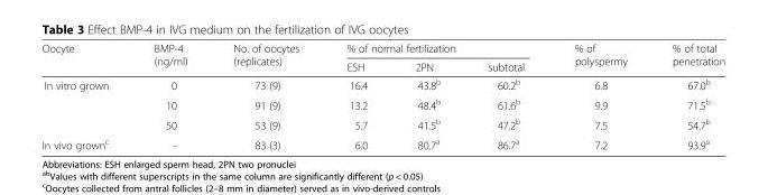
<table><thead><tr><td rowspan="2">Oocyte</td><td rowspan="2">BMP-4 (ng/ml)</td><td rowspan="2">No. of oocytes (replicates)</td><td colspan="3">% of normal fertilization</td><td rowspan="2">% of polyspermy</td><td rowspan="2">% of total penetration</td></tr><tr><td>ESH</td><td>2PN</td><td>subtotal</td></tr></thead><tbody><tr><td rowspan="3">In vitro grown</td><td>0</td><td>73 (9)</td><td>16.4</td><td>43.8<sup>b</sup></td><td>60.2<sup>b</sup></td><td>6.8</td><td>67.0<sup>b</sup></td></tr><tr><td>10</td><td>91 (9)</td><td>13.2</td><td>48.4<sup>b</sup></td><td>61.6<sup>b</sup></td><td>9.9</td><td>71.5<sup>b</sup></td></tr><tr><td>50</td><td>53 (9)</td><td>5.7</td><td>41.5<sup>b</sup></td><td>47.2<sup>b</sup></td><td>7.5</td><td>54.7<sup>b</sup></td></tr><tr><td>In vivo grown<sup>c</sup></td><td>-</td><td>83 (3)</td><td>6.0</td><td>80.7<sup>a</sup></td><td>86.7<sup>a</sup></td><td>7.2</td><td>93.9<sup>a</sup></td></tr></tbody></table>